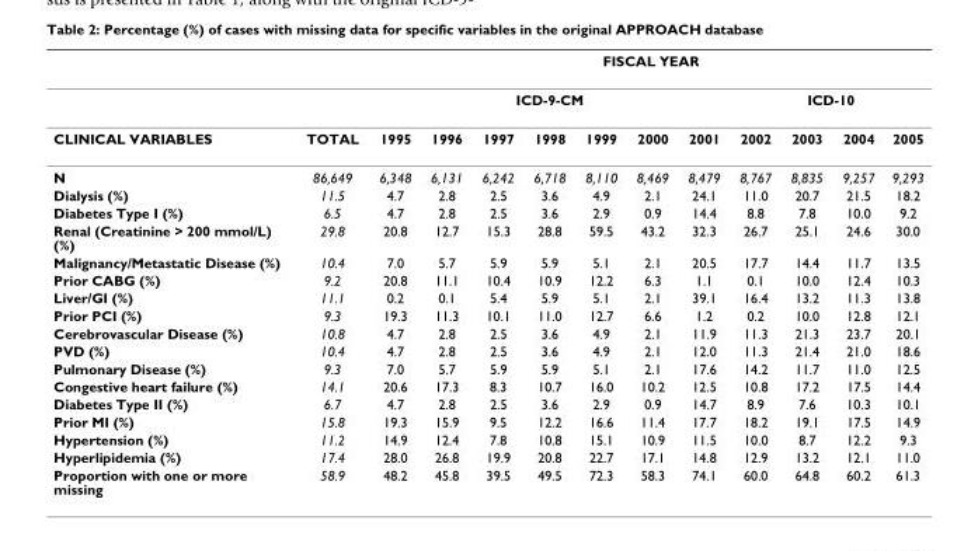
<table><thead><tr><td rowspan="3">CLINICAL VARIABLES</td><td rowspan="3">TOTAL</td><td colspan="11">FISCAL YEAR</td></tr><tr><td colspan="7">ICD-9-CM</td><td colspan="4">ICD-10</td></tr><tr><td>1995</td><td>1996</td><td>1997</td><td>1998</td><td>1999</td><td>2000</td><td>2001</td><td>2002</td><td>2003</td><td>2004</td><td>2005</td></tr></thead><tbody><tr><td>N</td><td>86,649</td><td>6,348</td><td>6,131</td><td>6,242</td><td>6,718</td><td>8,110</td><td>8,469</td><td>8,479</td><td>8,767</td><td>8,835</td><td>9,257</td><td>9,293</td></tr><tr><td>Dialysis (%)</td><td>11.5</td><td>4.7</td><td>2.8</td><td>2.5</td><td>3.6</td><td>4.9</td><td>2.1</td><td>24.1</td><td>11.0</td><td>20.7</td><td>21.5</td><td>18.2</td></tr><tr><td>Diabetes Type I (%)</td><td>6.5</td><td>4.7</td><td>2.8</td><td>2.5</td><td>3.6</td><td>2.9</td><td>0.9</td><td>14.4</td><td>8.8</td><td>7.8</td><td>10.0</td><td>9.2</td></tr><tr><td>Renal (Creatinine &gt; 200 mmol/L) (%)</td><td>29.8</td><td>20.8</td><td>12.7</td><td>15.3</td><td>28.8</td><td>59.5</td><td>43.2</td><td>32.3</td><td>26.7</td><td>25.1</td><td>24.6</td><td>30.0</td></tr><tr><td>Malignancy/Metastatic Disease (%)</td><td>10.4</td><td>7.0</td><td>5.7</td><td>5.9</td><td>5.9</td><td>5.1</td><td>2.1</td><td>20.5</td><td>17.7</td><td>14.4</td><td>11.7</td><td>13.5</td></tr><tr><td>Prior CABG (%)</td><td>9.2</td><td>20.8</td><td>11.1</td><td>10.4</td><td>10.9</td><td>12.2</td><td>6.3</td><td>1.1</td><td>0.1</td><td>10.0</td><td>12.4</td><td>10.3</td></tr><tr><td>Liver/GI (%)</td><td>11.1</td><td>0.2</td><td>0.1</td><td>5.4</td><td>5.9</td><td>5.1</td><td>2.1</td><td>39.1</td><td>16.4</td><td>13.2</td><td>11.3</td><td>13.8</td></tr><tr><td>Prior PCI (%)</td><td>9.3</td><td>19.3</td><td>11.3</td><td>10.1</td><td>11.0</td><td>12.7</td><td>6.6</td><td>1.2</td><td>0.2</td><td>10.0</td><td>12.8</td><td>12.1</td></tr><tr><td>Cerebrovascular Disease (%)</td><td>10.8</td><td>4.7</td><td>2.8</td><td>2.5</td><td>3.6</td><td>4.9</td><td>2.1</td><td>11.9</td><td>11.3</td><td>21.3</td><td>23.7</td><td>20.1</td></tr><tr><td>PVD (%)</td><td>10.4</td><td>4.7</td><td>2.8</td><td>2.5</td><td>3.6</td><td>4.9</td><td>2.1</td><td>12.0</td><td>11.3</td><td>21.4</td><td>21.0</td><td>18.6</td></tr><tr><td>Pulmonary Disease (%)</td><td>9.3</td><td>7.0</td><td>5.7</td><td>5.9</td><td>5.9</td><td>5.1</td><td>2.1</td><td>17.6</td><td>14.2</td><td>11.7</td><td>11.0</td><td>12.5</td></tr><tr><td>Congestive heart failure (%)</td><td>14.1</td><td>20.6</td><td>17.3</td><td>8.3</td><td>10.7</td><td>16.0</td><td>10.2</td><td>12.5</td><td>10.8</td><td>17.2</td><td>17.5</td><td>14.4</td></tr><tr><td>Diabetes Type II (%)</td><td>6.7</td><td>4.7</td><td>2.8</td><td>2.5</td><td>3.6</td><td>2.9</td><td>0.9</td><td>14.7</td><td>8.9</td><td>7.6</td><td>10.3</td><td>10.1</td></tr><tr><td>Prior MI (%)</td><td>15.8</td><td>19.3</td><td>15.9</td><td>9.5</td><td>12.2</td><td>16.6</td><td>11.4</td><td>17.7</td><td>18.2</td><td>19.1</td><td>17.5</td><td>14.9</td></tr><tr><td>Hypertension (%)</td><td>11.2</td><td>14.9</td><td>12.4</td><td>7.8</td><td>10.8</td><td>15.1</td><td>10.9</td><td>11.5</td><td>10.0</td><td>8.7</td><td>12.2</td><td>9.3</td></tr><tr><td>Hyperlipidemia (%)</td><td>17.4</td><td>28.0</td><td>26.8</td><td>19.9</td><td>20.8</td><td>22.7</td><td>17.1</td><td>14.8</td><td>12.9</td><td>13.2</td><td>12.1</td><td>11.0</td></tr><tr><td>Proportion with one or more missing</td><td>58.9</td><td>48.2</td><td>45.8</td><td>39.5</td><td>49.5</td><td>72.3</td><td>58.3</td><td>74.1</td><td>60.0</td><td>64.8</td><td>60.2</td><td>61.3</td></tr></tbody></table>